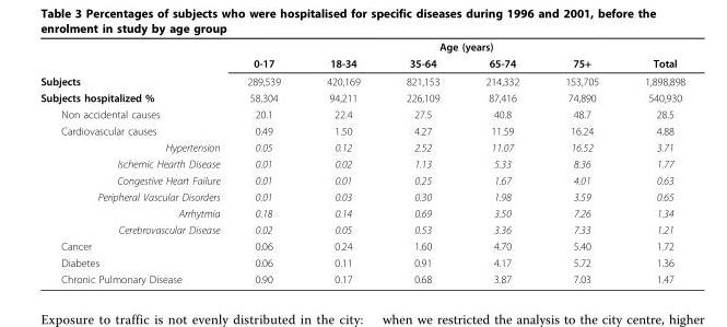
<table><thead><tr><td rowspan="2"></td><td colspan="6">Age (years)</td></tr><tr><td>0-17</td><td>18-34</td><td>35-64</td><td>65-74</td><td>75+</td><td>Total</td></tr></thead><tbody><tr><td>Subjects</td><td>289,539</td><td>420,169</td><td>821,153</td><td>214,332</td><td>153,705</td><td>1,898,898</td></tr><tr><td>Subjects hospitalized %</td><td>58,304</td><td>94,211</td><td>226,109</td><td>87,416</td><td>74,890</td><td>540,930</td></tr><tr><td>Non accidental causes</td><td>20.1</td><td>22.4</td><td>27.5</td><td>40.8</td><td>48.7</td><td>28.5</td></tr><tr><td>Cardiovascular causes</td><td>0.49</td><td>1.50</td><td>4.27</td><td>11.59</td><td>16.24</td><td>4.88</td></tr><tr><td>Hypertension</td><td>0.05</td><td>0.12</td><td>2.52</td><td>11.07</td><td>16.52</td><td>3.71</td></tr><tr><td>Ischemic Hearth Disease</td><td>0.01</td><td>0.02</td><td>1.13</td><td>5.33</td><td>8.36</td><td>1.77</td></tr><tr><td>Congestive Heart Failure</td><td>0.01</td><td>0.01</td><td>0.25</td><td>1.67</td><td>4.01</td><td>0.63</td></tr><tr><td>Peripheral Vascular Disorders</td><td>0.01</td><td>0.03</td><td>0.30</td><td>1.98</td><td>3.59</td><td>0.65</td></tr><tr><td>Arrhytmia</td><td>0.18</td><td>0.14</td><td>0.69</td><td>3.50</td><td>7.26</td><td>1.34</td></tr><tr><td>Cerebrovascular Disease</td><td>0.02</td><td>0.05</td><td>0.53</td><td>3.36</td><td>7.33</td><td>1.21</td></tr><tr><td>Cancer</td><td>0.06</td><td>0.24</td><td>1.60</td><td>4.70</td><td>5.40</td><td>1.72</td></tr><tr><td>Diabetes</td><td>0.06</td><td>0.11</td><td>0.91</td><td>4.17</td><td>5.72</td><td>1.36</td></tr><tr><td>Chronic Pulmonary Disease</td><td>0.90</td><td>0.17</td><td>0.68</td><td>3.87</td><td>7.03</td><td>1.47</td></tr></tbody></table>